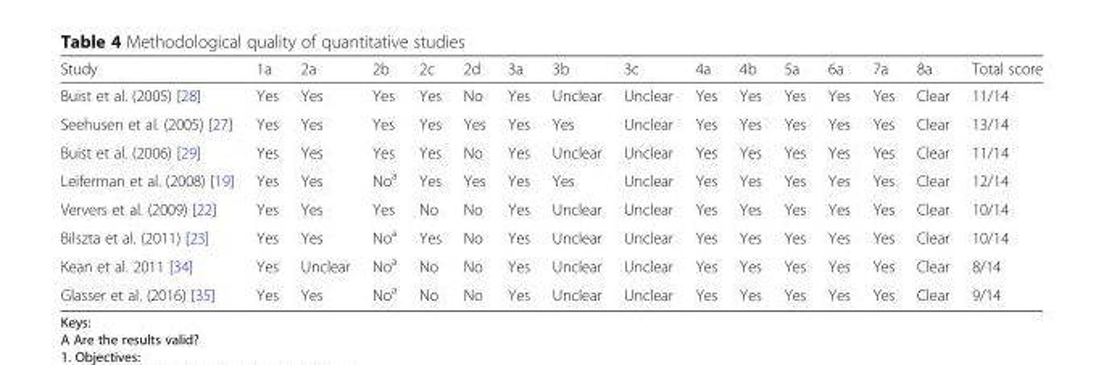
<table><thead><tr><td>Study</td><td>1a</td><td>2a</td><td>2b</td><td>2c</td><td>2d</td><td>3a</td><td>3b</td><td>3c</td><td>4a</td><td>4b</td><td>5a</td><td>6a</td><td>7a</td><td>8a</td><td>Total score</td></tr></thead><tbody><tr><td>Buist et al. (2005) [28]</td><td>Yes</td><td>Yes</td><td>Yes</td><td>Yes</td><td>No</td><td>Yes</td><td>Unclear</td><td>Unclear</td><td>Yes</td><td>Yes</td><td>Yes</td><td>Yes</td><td>Yes</td><td>Clear</td><td>11/14</td></tr><tr><td>Seehusen et al. (2005) [27]</td><td>Yes</td><td>Yes</td><td>Yes</td><td>Yes</td><td>Yes</td><td>Yes</td><td>Yes</td><td>Unclear</td><td>Yes</td><td>Yes</td><td>Yes</td><td>Yes</td><td>Yes</td><td>Clear</td><td>13/14</td></tr><tr><td>Buist et al. (2006) [29]</td><td>Yes</td><td>Yes</td><td>Yes</td><td>Yes</td><td>No</td><td>Yes</td><td>Unclear</td><td>Unclear</td><td>Yes</td><td>Yes</td><td>Yes</td><td>Yes</td><td>Yes</td><td>Clear</td><td>11/14</td></tr><tr><td>Leiferman et al. (2008) [19]</td><td>Yes</td><td>Yes</td><td>No<sup>a</sup></td><td>Yes</td><td>Yes</td><td>Yes</td><td>Yes</td><td>Unclear</td><td>Yes</td><td>Yes</td><td>Yes</td><td>Yes</td><td>Yes</td><td>Clear</td><td>12/14</td></tr><tr><td>Ververs et al. (2009) [22]</td><td>Yes</td><td>Yes</td><td>Yes</td><td>No</td><td>No</td><td>Yes</td><td>Unclear</td><td>Unclear</td><td>Yes</td><td>Yes</td><td>Yes</td><td>Yes</td><td>Yes</td><td>Clear</td><td>10/14</td></tr><tr><td>Bilszta et al. (2011) [23]</td><td>Yes</td><td>Yes</td><td>No<sup>a</sup></td><td>Yes</td><td>No</td><td>Yes</td><td>Unclear</td><td>Unclear</td><td>Yes</td><td>Yes</td><td>Yes</td><td>Yes</td><td>Yes</td><td>Clear</td><td>10/14</td></tr><tr><td>Kean et al. 2011 [34]</td><td>Yes</td><td>Unclear</td><td>No<sup>a</sup></td><td>No</td><td>No</td><td>Yes</td><td>Unclear</td><td>Unclear</td><td>Yes</td><td>Yes</td><td>Yes</td><td>Yes</td><td>Yes</td><td>Clear</td><td>8/14</td></tr><tr><td>Glasser et al. (2016) [35]</td><td>Yes</td><td>Yes</td><td>No<sup>a</sup></td><td>No</td><td>No</td><td>Yes</td><td>Unclear</td><td>Unclear</td><td>Yes</td><td>Yes</td><td>Yes</td><td>Yes</td><td>Yes</td><td>Clear</td><td>9/14</td></tr></tbody></table>